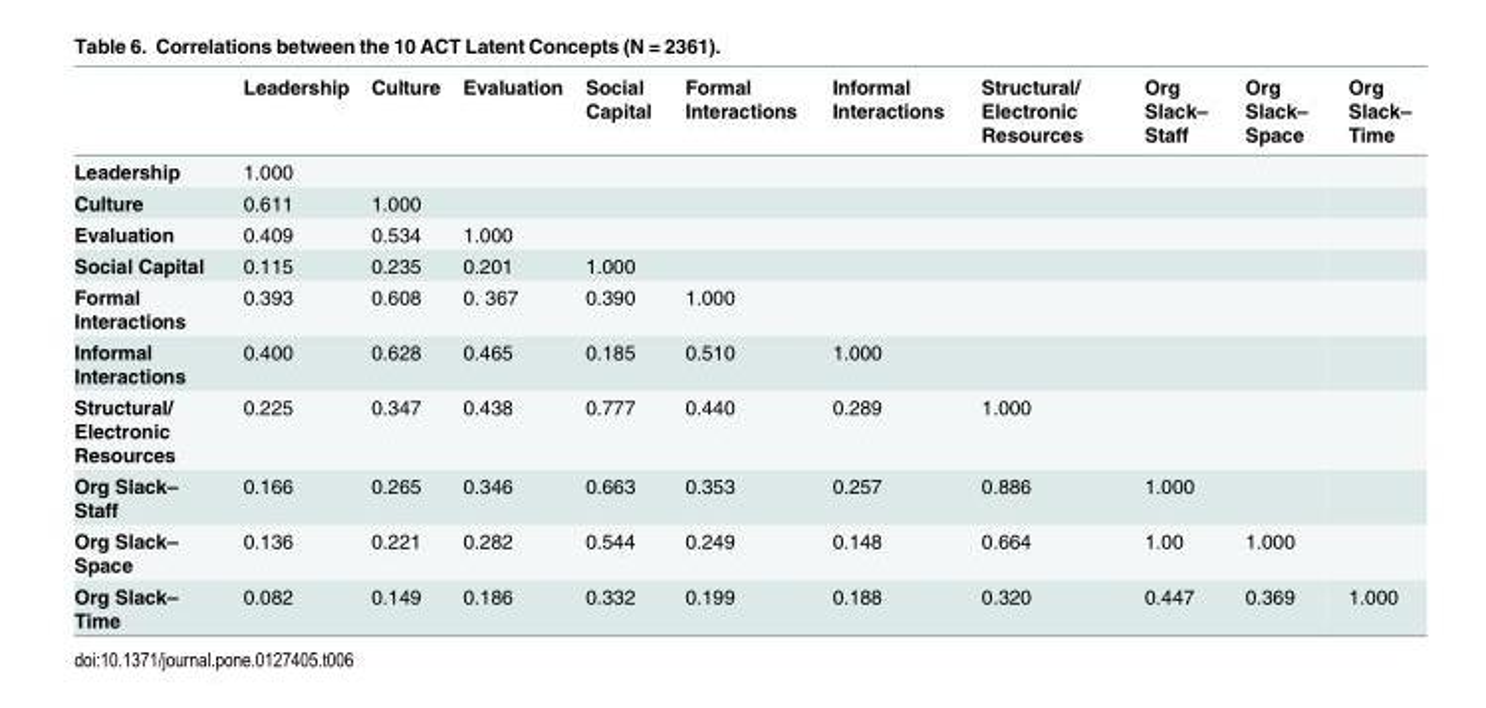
<table><thead><tr><td></td><td>Leadership</td><td>Culture</td><td>Evaluation</td><td>Social Capital</td><td>Formal Interactions</td><td>Informal Interactions</td><td>Structural/ Electronic Resources</td><td>Org Slack– Staff</td><td>Org Slack– Space</td><td>Org Slack– Time</td></tr></thead><tbody><tr><td>Leadership</td><td>1.000</td><td></td><td></td><td></td><td></td><td></td><td></td><td></td><td></td><td></td></tr><tr><td>Culture</td><td>0.611</td><td>1.000</td><td></td><td></td><td></td><td></td><td></td><td></td><td></td><td></td></tr><tr><td>Evaluation</td><td>0.409</td><td>0.534</td><td>1.000</td><td></td><td></td><td></td><td></td><td></td><td></td><td></td></tr><tr><td>Social Capital</td><td>0.115</td><td>0.235</td><td>0.201</td><td>1.000</td><td></td><td></td><td></td><td></td><td></td><td></td></tr><tr><td>Formal Interactions</td><td>0.393</td><td>0.608</td><td>0. 367</td><td>0.390</td><td>1.000</td><td></td><td></td><td></td><td></td><td></td></tr><tr><td>Informal Interactions</td><td>0.400</td><td>0.628</td><td>0.465</td><td>0.185</td><td>0.510</td><td>1.000</td><td></td><td></td><td></td><td></td></tr><tr><td>Structural/ Electronic Resources</td><td>0.225</td><td>0.347</td><td>0.438</td><td>0.777</td><td>0.440</td><td>0.289</td><td>1.000</td><td></td><td></td><td></td></tr><tr><td>Org Slack– Staff</td><td>0.166</td><td>0.265</td><td>0.346</td><td>0.663</td><td>0.353</td><td>0.257</td><td>0.886</td><td>1.000</td><td></td><td></td></tr><tr><td>Org Slack– Space</td><td>0.136</td><td>0.221</td><td>0.282</td><td>0.544</td><td>0.249</td><td>0.148</td><td>0.664</td><td>1.00</td><td>1.000</td><td></td></tr><tr><td>Org Slack– Time</td><td>0.082</td><td>0.149</td><td>0.186</td><td>0.332</td><td>0.199</td><td>0.188</td><td>0.320</td><td>0.447</td><td>0.369</td><td>1.000</td></tr></tbody></table>